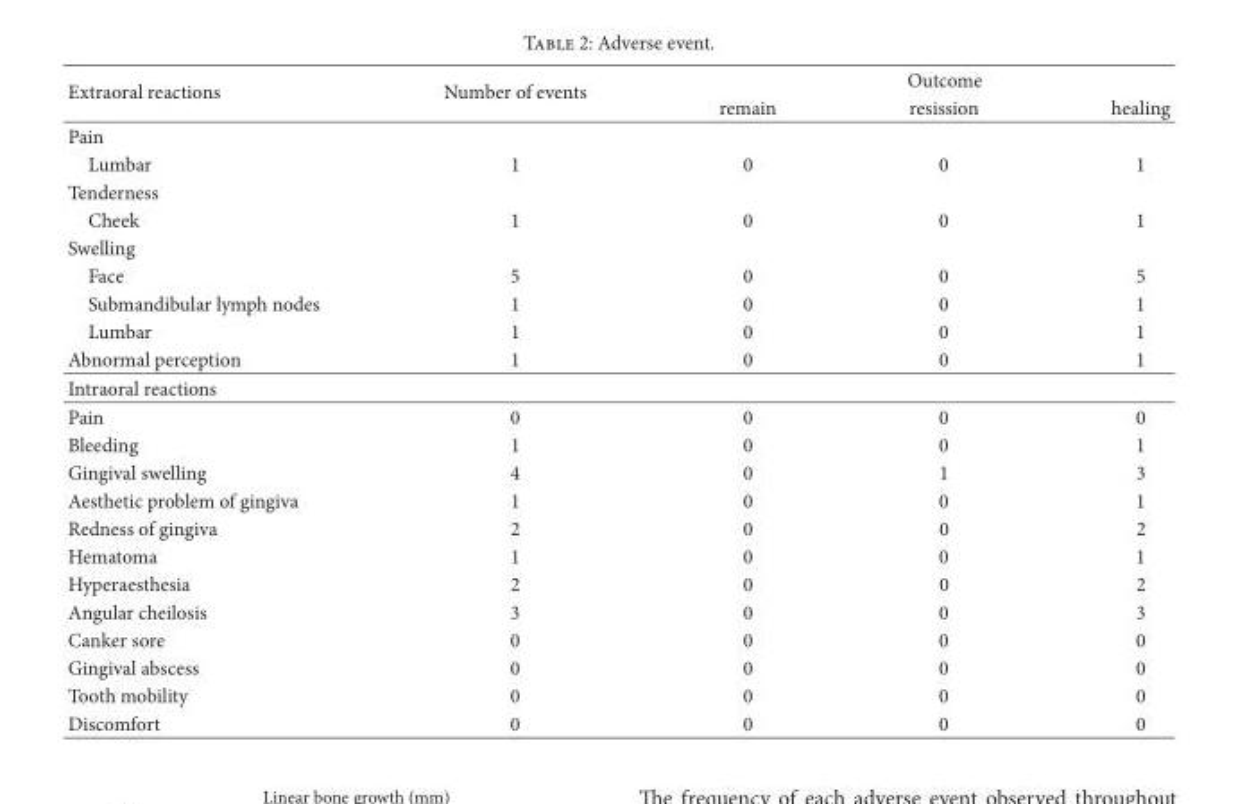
<table><thead><tr><td rowspan="2">Extraoral reactions</td><td rowspan="2">Number of events</td><td colspan="3">Outcome</td></tr><tr><td>remain</td><td>resission</td><td>healing</td></tr></thead><tbody><tr><td colspan="5">Pain</td></tr><tr><td>Lumbar</td><td>1</td><td>0</td><td>0</td><td>1</td></tr><tr><td colspan="5">Tenderness</td></tr><tr><td>Cheek</td><td>1</td><td>0</td><td>0</td><td>1</td></tr><tr><td colspan="5">Swelling</td></tr><tr><td>Face</td><td>5</td><td>0</td><td>0</td><td>5</td></tr><tr><td>Submandibular lymph nodes</td><td>1</td><td>0</td><td>0</td><td>1</td></tr><tr><td>Lumbar</td><td>1</td><td>0</td><td>0</td><td>1</td></tr><tr><td>Abnormal perception</td><td>1</td><td>0</td><td>0</td><td>1</td></tr><tr><td colspan="5">Intraoral reactions</td></tr><tr><td>Pain</td><td>0</td><td>0</td><td>0</td><td>0</td></tr><tr><td>Bleeding</td><td>1</td><td>0</td><td>0</td><td>1</td></tr><tr><td>Gingival swelling</td><td>4</td><td>0</td><td>1</td><td>3</td></tr><tr><td>Aesthetic problem of gingiva</td><td>1</td><td>0</td><td>0</td><td>1</td></tr><tr><td>Redness of gingiva</td><td>2</td><td>0</td><td>0</td><td>2</td></tr><tr><td>Hematoma</td><td>1</td><td>0</td><td>0</td><td>1</td></tr><tr><td>Hyperaesthesia</td><td>2</td><td>0</td><td>0</td><td>2</td></tr><tr><td>Angular cheilosis</td><td>3</td><td>0</td><td>0</td><td>3</td></tr><tr><td>Canker sore</td><td>0</td><td>0</td><td>0</td><td>0</td></tr><tr><td>Gingival abscess</td><td>0</td><td>0</td><td>0</td><td>0</td></tr><tr><td>Tooth mobility</td><td>0</td><td>0</td><td>0</td><td>0</td></tr><tr><td>Discomfort</td><td>0</td><td>0</td><td>0</td><td>0</td></tr></tbody></table>